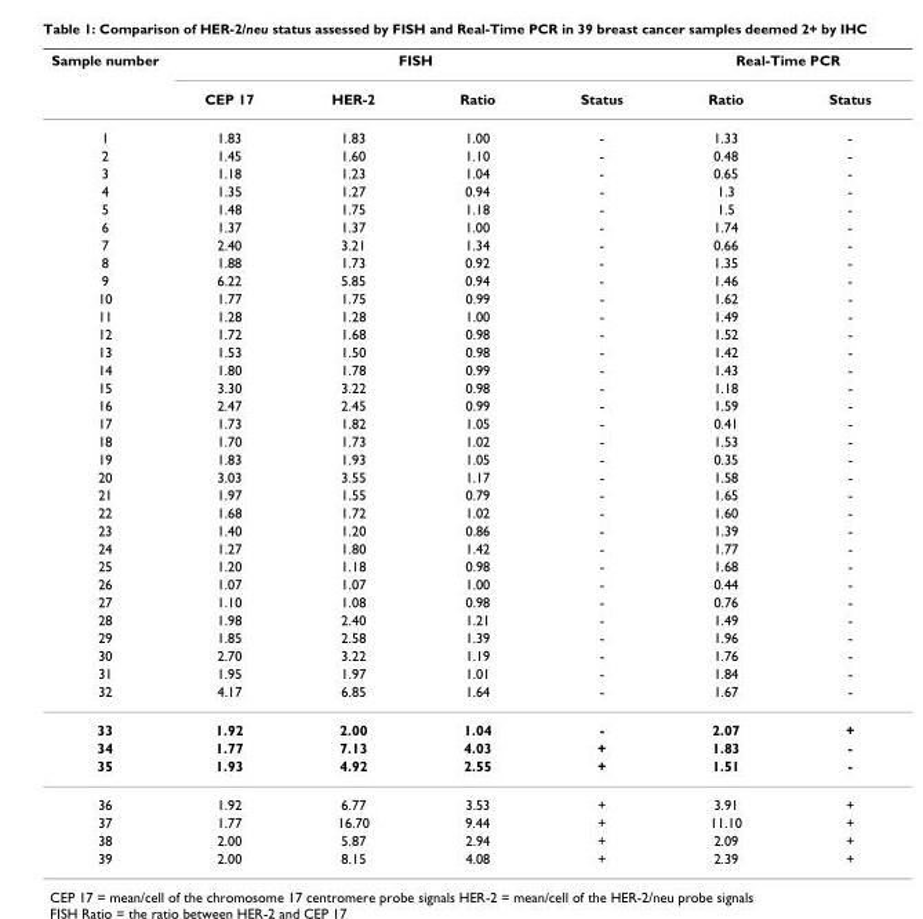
<table><thead><tr><td rowspan="2">Sample number</td><td colspan="4">FISH</td><td colspan="2">Real-Time PCR</td></tr><tr><td>CEP 17</td><td>HER-2</td><td>Ratio</td><td>Status</td><td>Ratio</td><td>Status</td></tr></thead><tbody><tr><td>1</td><td>1.83</td><td>1.83</td><td>1.00</td><td>-</td><td>1.33</td><td>-</td></tr><tr><td>2</td><td>1.45</td><td>1.60</td><td>1.10</td><td>-</td><td>0.48</td><td>-</td></tr><tr><td>3</td><td>1.18</td><td>1.23</td><td>1.04</td><td>-</td><td>0.65</td><td>-</td></tr><tr><td>4</td><td>1.35</td><td>1.27</td><td>0.94</td><td>-</td><td>1.3</td><td>-</td></tr><tr><td>5</td><td>1.48</td><td>1.75</td><td>1.18</td><td>-</td><td>1.5</td><td>-</td></tr><tr><td>6</td><td>1.37</td><td>1.37</td><td>1.00</td><td>-</td><td>1.74</td><td>-</td></tr><tr><td>7</td><td>2.40</td><td>3.21</td><td>1.34</td><td>-</td><td>0.66</td><td>-</td></tr><tr><td>8</td><td>1.88</td><td>1.73</td><td>0.92</td><td>-</td><td>1.35</td><td>-</td></tr><tr><td>9</td><td>6.22</td><td>5.85</td><td>0.94</td><td>-</td><td>1.46</td><td>-</td></tr><tr><td>10</td><td>1.77</td><td>1.75</td><td>0.99</td><td>-</td><td>1.62</td><td>-</td></tr><tr><td>11</td><td>1.28</td><td>1.28</td><td>1.00</td><td>-</td><td>1.49</td><td>-</td></tr><tr><td>12</td><td>1.72</td><td>1.68</td><td>0.98</td><td>-</td><td>1.52</td><td>-</td></tr><tr><td>13</td><td>1.53</td><td>1.50</td><td>0.98</td><td>-</td><td>1.42</td><td>-</td></tr><tr><td>14</td><td>1.80</td><td>1.78</td><td>0.99</td><td>-</td><td>1.43</td><td>-</td></tr><tr><td>15</td><td>3.30</td><td>3.22</td><td>0.98</td><td>-</td><td>1.18</td><td>-</td></tr><tr><td>16</td><td>2.47</td><td>2.45</td><td>0.99</td><td>-</td><td>1.59</td><td>-</td></tr><tr><td>17</td><td>1.73</td><td>1.82</td><td>1.05</td><td>-</td><td>0.41</td><td>-</td></tr><tr><td>18</td><td>1.70</td><td>1.73</td><td>1.02</td><td>-</td><td>1.53</td><td>-</td></tr><tr><td>19</td><td>1.83</td><td>1.93</td><td>1.05</td><td>-</td><td>0.35</td><td>-</td></tr><tr><td>20</td><td>3.03</td><td>3.55</td><td>1.17</td><td>-</td><td>1.58</td><td>-</td></tr><tr><td>21</td><td>1.97</td><td>1.55</td><td>0.79</td><td>-</td><td>1.65</td><td>-</td></tr><tr><td>22</td><td>1.68</td><td>1.72</td><td>1.02</td><td>-</td><td>1.60</td><td>-</td></tr><tr><td>23</td><td>1.40</td><td>1.20</td><td>0.86</td><td>-</td><td>1.39</td><td>-</td></tr><tr><td>24</td><td>1.27</td><td>1.80</td><td>1.42</td><td>-</td><td>1.77</td><td>-</td></tr><tr><td>25</td><td>1.20</td><td>1.18</td><td>0.98</td><td>-</td><td>1.68</td><td>-</td></tr><tr><td>26</td><td>1.07</td><td>1.07</td><td>1.00</td><td>-</td><td>0.44</td><td>-</td></tr><tr><td>27</td><td>1.10</td><td>1.08</td><td>0.98</td><td>-</td><td>0.76</td><td>-</td></tr><tr><td>28</td><td>1.98</td><td>2.40</td><td>1.21</td><td>-</td><td>1.49</td><td>-</td></tr><tr><td>29</td><td>1.85</td><td>2.58</td><td>1.39</td><td>-</td><td>1.96</td><td>-</td></tr><tr><td>30</td><td>2.70</td><td>3.22</td><td>1.19</td><td>-</td><td>1.76</td><td>-</td></tr><tr><td>31</td><td>1.95</td><td>1.97</td><td>1.01</td><td>-</td><td>1.84</td><td>-</td></tr><tr><td>32</td><td>4.17</td><td>6.85</td><td>1.64</td><td>-</td><td>1.67</td><td>-</td></tr><tr><td>33</td><td>1.92</td><td>2.00</td><td>1.04</td><td>-</td><td>2.07</td><td>+</td></tr><tr><td>34</td><td>1.77</td><td>7.13</td><td>4.03</td><td>+</td><td>1.83</td><td>-</td></tr><tr><td>35</td><td>1.93</td><td>4.92</td><td>2.55</td><td>+</td><td>1.51</td><td>-</td></tr><tr><td>36</td><td>1.92</td><td>6.77</td><td>3.53</td><td>+</td><td>3.91</td><td>+</td></tr><tr><td>37</td><td>1.77</td><td>16.70</td><td>9.44</td><td>+</td><td>11.10</td><td>+</td></tr><tr><td>38</td><td>2.00</td><td>5.87</td><td>2.94</td><td>+</td><td>2.09</td><td>+</td></tr><tr><td>39</td><td>2.00</td><td>8.15</td><td>4.08</td><td>+</td><td>2.39</td><td>+</td></tr></tbody></table>